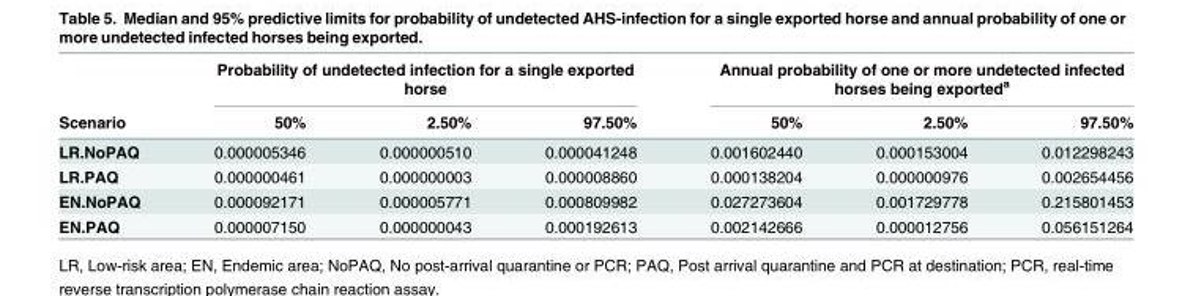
<table><thead><tr><td rowspan="2">Scenario</td><td colspan="3">Probability of undetected infection for a single exported horse</td><td colspan="3">Annual probability of one or more undetected infected horses being exported<sup>a</sup></td></tr><tr><td>50%</td><td>2.50%</td><td>97.50%</td><td>50%</td><td>2.50%</td><td>97.50%</td></tr></thead><tbody><tr><td>LR.NoPAQ</td><td>0.000005346</td><td>0.000000510</td><td>0.000041248</td><td>0.001602440</td><td>0.000153004</td><td>0.012298243</td></tr><tr><td>LR.PAQ</td><td>0.000000461</td><td>0.000000003</td><td>0.000008860</td><td>0.000138204</td><td>0.000000976</td><td>0.002654456</td></tr><tr><td>EN.NoPAQ</td><td>0.000092171</td><td>0.000005771</td><td>0.000809982</td><td>0.027273604</td><td>0.001729778</td><td>0.215801453</td></tr><tr><td>EN.PAQ</td><td>0.000007150</td><td>0.000000043</td><td>0.000192613</td><td>0.002142666</td><td>0.000012756</td><td>0.056151264</td></tr></tbody></table>